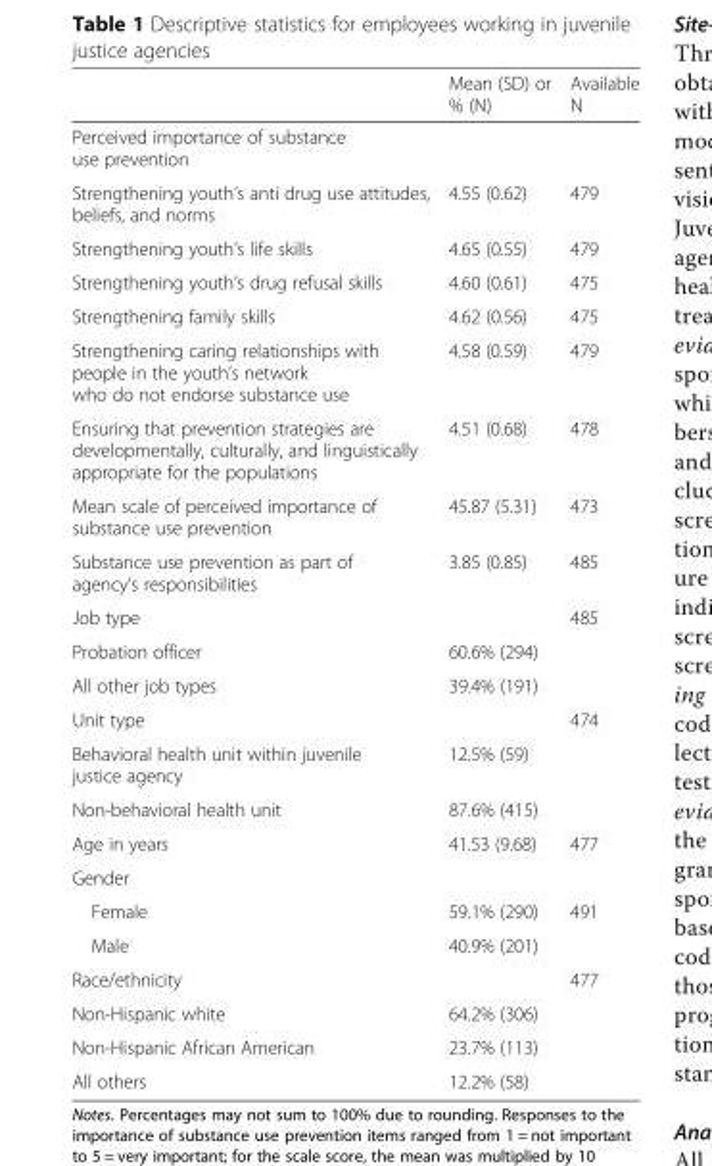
<table><thead><tr><td></td><td>Mean (SD) or % (N)</td><td>Available N</td></tr></thead><tbody><tr><td colspan="3">Perceived importance of substance use prevention</td></tr><tr><td>Strengthening youth’s anti drug use attitudes, beliefs, and norms</td><td>4.55 (0.62)</td><td>479</td></tr><tr><td>Strengthening youth’s life skills</td><td>4.65 (0.55)</td><td>479</td></tr><tr><td>Strengthening youth’s drug refusal skills</td><td>4.60 (0.61)</td><td>475</td></tr><tr><td>Strengthening family skills</td><td>4.62 (0.56)</td><td>475</td></tr><tr><td>Strengthening caring relationships with people in the youth’s network who do not endorse substance use</td><td>4.58 (0.59)</td><td>479</td></tr><tr><td>Ensuring that prevention strategies are developmentally, culturally, and linguistically appropriate for the populations</td><td>4.51 (0.68)</td><td>478</td></tr><tr><td>Mean scale of perceived importance of substance use prevention</td><td>45.87 (5.31)</td><td>473</td></tr><tr><td>Substance use prevention as part of agency’s responsibilities</td><td>3.85 (0.85)</td><td>485</td></tr><tr><td>Job type</td><td></td><td>485</td></tr><tr><td>Probation officer</td><td>60.6% (294)</td><td rowspan="2"></td></tr><tr><td>All other job types</td><td>39.4% (191)</td></tr><tr><td>Unit type</td><td></td><td>474</td></tr><tr><td>Behavioral health unit within juvenile justice agency</td><td>12.5% (59)</td><td rowspan="2"></td></tr><tr><td>Non-behavioral health unit</td><td>87.6% (415)</td></tr><tr><td>Age in years</td><td>41.53 (9.68)</td><td>477</td></tr><tr><td colspan="3">Gender</td></tr><tr><td>Female</td><td>59.1% (290)</td><td>491</td></tr><tr><td>Male</td><td>40.9% (201)</td><td></td></tr><tr><td>Race/ethnicity</td><td></td><td>477</td></tr><tr><td>Non-Hispanic white</td><td>64.2% (306)</td><td rowspan="3"></td></tr><tr><td>Non-Hispanic African American</td><td>23.7% (113)</td></tr><tr><td>All others</td><td>12.2% (58)</td></tr></tbody></table>